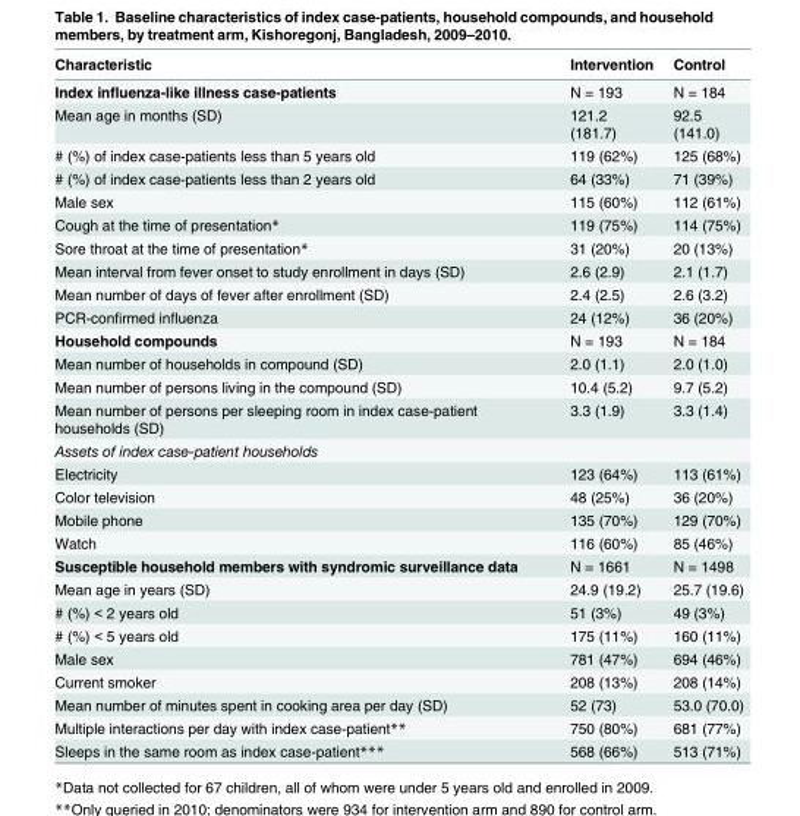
<table><thead><tr><td>Characteristic</td><td>Intervention</td><td>Control</td></tr></thead><tbody><tr><td>Index influenza-like illness case-patients</td><td>N = 193</td><td>N = 184</td></tr><tr><td>Mean age in months (SD)</td><td>121.2 (181.7)</td><td>92.5 (141.0)</td></tr><tr><td># (%) of index case-patients less than 5 years old</td><td>119 (62%)</td><td>125 (68%)</td></tr><tr><td># (%) of index case-patients less than 2 years old</td><td>64 (33%)</td><td>71 (39%)</td></tr><tr><td>Male sex</td><td>115 (60%)</td><td>112 (61%)</td></tr><tr><td>Cough at the time of presentation*</td><td>119 (75%)</td><td>114 (75%)</td></tr><tr><td>Sore throat at the time of presentation*</td><td>31 (20%)</td><td>20 (13%)</td></tr><tr><td>Mean interval from fever onset to study enrollment in days (SD)</td><td>2.6 (2.9)</td><td>2.1 (1.7)</td></tr><tr><td>Mean number of days of fever after enrollment (SD)</td><td>2.4 (2.5)</td><td>2.6 (3.2)</td></tr><tr><td>PCR-confirmed influenza</td><td>24 (12%)</td><td>36 (20%)</td></tr><tr><td>Household compounds</td><td>N = 193</td><td>N = 184</td></tr><tr><td>Mean number of households in compound (SD)</td><td>2.0 (1.1)</td><td>2.0 (1.0)</td></tr><tr><td>Mean number of persons living in the compound (SD)</td><td>10.4 (5.2)</td><td>9.7 (5.2)</td></tr><tr><td>Mean number of persons per sleeping room in index case-patient households (SD)</td><td>3.3 (1.9)</td><td>3.3 (1.4)</td></tr><tr><td colspan="3">Assets of index case-patient households</td></tr><tr><td>Electricity</td><td>123 (64%)</td><td>113 (61%)</td></tr><tr><td>Color television</td><td>48 (25%)</td><td>36 (20%)</td></tr><tr><td>Mobile phone</td><td>135 (70%)</td><td>129 (70%)</td></tr><tr><td>Watch</td><td>116 (60%)</td><td>85 (46%)</td></tr><tr><td>Susceptible household members with syndromic surveillance data</td><td>N = 1661</td><td>N = 1498</td></tr><tr><td>Mean age in years (SD)</td><td>24.9 (19.2)</td><td>25.7 (19.6)</td></tr><tr><td># (%) &lt; 2 years old</td><td>51 (3%)</td><td>49 (3%)</td></tr><tr><td># (%) &lt; 5 years old</td><td>175 (11%)</td><td>160 (11%)</td></tr><tr><td>Male sex</td><td>781 (47%)</td><td>694 (46%)</td></tr><tr><td>Current smoker</td><td>208 (13%)</td><td>208 (14%)</td></tr><tr><td>Mean number of minutes spent in cooking area per day (SD)</td><td>52 (73)</td><td>53.0 (70.0)</td></tr><tr><td>Multiple interactions per day with index case-patient**</td><td>750 (80%)</td><td>681 (77%)</td></tr><tr><td>Sleeps in the same room as index case-patient***</td><td>568 (66%)</td><td>513 (71%)</td></tr></tbody></table>